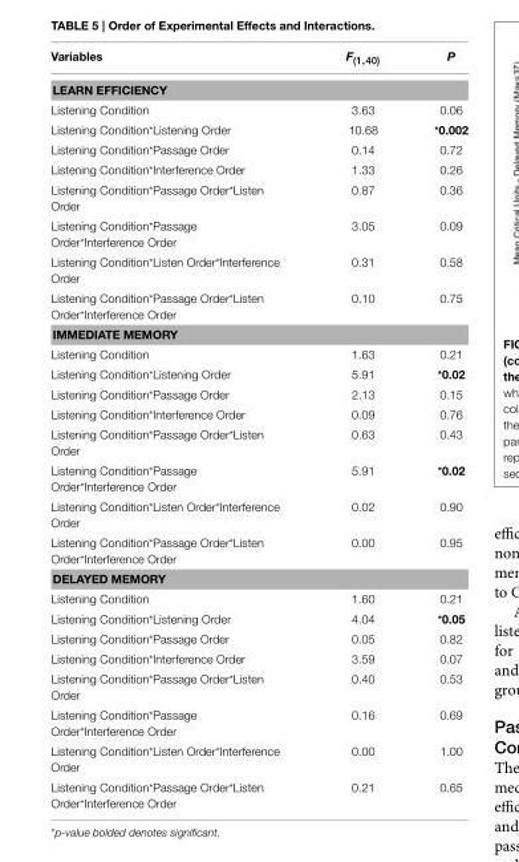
<table><thead><tr><td>Variables</td><td>F<sub>(1,40)</sub></td><td>P</td></tr></thead><tbody><tr><td colspan="3">LEARN EFFICIENCY</td></tr><tr><td>Listening Condition</td><td>3.63</td><td>0.06</td></tr><tr><td>Listening Condition*Listening Order</td><td>10.68</td><td>*0.002</td></tr><tr><td>Listening Condition*Passage Order</td><td>0.14</td><td>0.72</td></tr><tr><td>Listening Condition*Interference Order</td><td>1.33</td><td>0.26</td></tr><tr><td>Listening Condition*Passage Order*Listen Order</td><td>0.87</td><td>0.36</td></tr><tr><td>Listening Condition*Passage Order*Interference Order</td><td>3.05</td><td>0.09</td></tr><tr><td>Listening Condition*Listen Order*Interference Order</td><td>0.31</td><td>0.58</td></tr><tr><td>Listening Condition*Passage Order*Listen Order*Interference Order</td><td>0.10</td><td>0.75</td></tr><tr><td colspan="3">IMMEDIATE MEMORY</td></tr><tr><td>Listening Condition</td><td>1.63</td><td>0.21</td></tr><tr><td>Listening Condition*Listening Order</td><td>5.91</td><td>*0.02</td></tr><tr><td>Listening Condition*Passage Order</td><td>2.13</td><td>0.15</td></tr><tr><td>Listening Condition*Interference Order</td><td>0.09</td><td>0.76</td></tr><tr><td>Listening Condition*Passage Order*Listen Order</td><td>0.63</td><td>0.43</td></tr><tr><td>Listening Condition*Passage Order*Interference Order</td><td>5.91</td><td>*0.02</td></tr><tr><td>Listening Condition*Listen Order*Interference Order</td><td>0.02</td><td>0.90</td></tr><tr><td>Listening Condition*Passage Order*Listen Order*Interference Order</td><td>0.00</td><td>0.95</td></tr><tr><td colspan="3">DELAYED MEMORY</td></tr><tr><td>Listening Condition</td><td>1.60</td><td>0.21</td></tr><tr><td>Listening Condition*Listening Order</td><td>4.04</td><td>*0.05</td></tr><tr><td>Listening Condition*Passage Order</td><td>0.05</td><td>0.82</td></tr><tr><td>Listening Condition*Interference Order</td><td>3.59</td><td>0.07</td></tr><tr><td>Listening Condition*Passage Order*Listen Order</td><td>0.40</td><td>0.53</td></tr><tr><td>Listening Condition*Passage Order*Interference Order</td><td>0.16</td><td>0.69</td></tr><tr><td>Listening Condition*Listen Order*Interference Order</td><td>0.00</td><td>1.00</td></tr><tr><td>Listening Condition*Passage Order*Listen Order*Interference Order</td><td>0.21</td><td>0.65</td></tr></tbody></table>